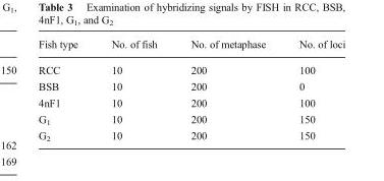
<table><thead><tr><td>Fish type</td><td>No. of fish</td><td>No. of metaphase</td><td>No. of loci</td></tr></thead><tbody><tr><td>RCC</td><td>10</td><td>200</td><td>100</td></tr><tr><td>BSB</td><td>10</td><td>200</td><td>0</td></tr><tr><td>4nF1</td><td>10</td><td>200</td><td>100</td></tr><tr><td>G<sub>1</sub></td><td>10</td><td>200</td><td>150</td></tr><tr><td>G<sub>2</sub></td><td>10</td><td>200</td><td>150</td></tr></tbody></table>